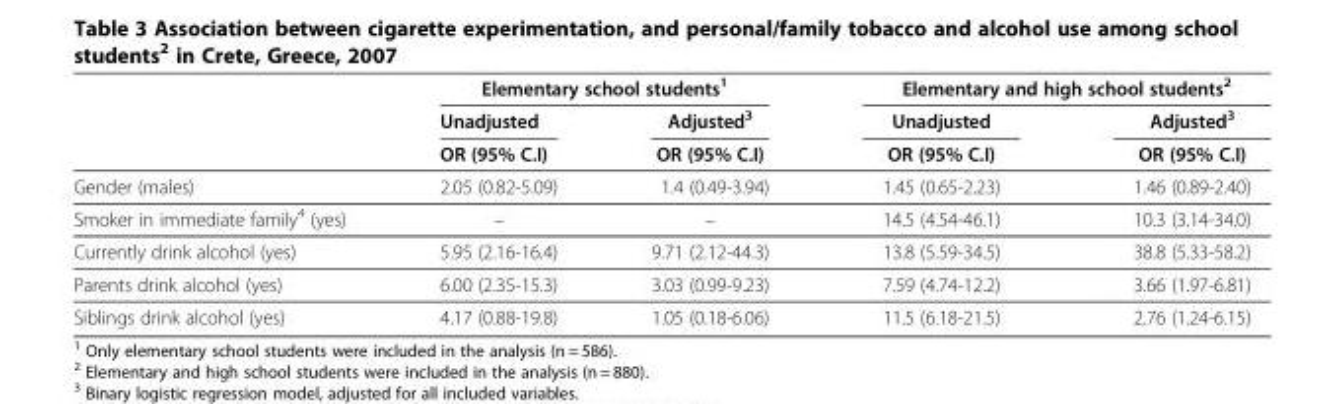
<table><thead><tr><td rowspan="3"></td><td colspan="2">Elementary school students<sup>1</sup></td><td colspan="2">Elementary and high school students<sup>2</sup></td></tr><tr><td rowspan="2">Unadjusted OR (95% C.I)</td><td rowspan="2">Adjusted<sup>3</sup> OR (95% C.I)</td><td rowspan="2">Unadjusted OR (95% C.I)</td><td rowspan="2">Adjusted<sup>3</sup> OR (95% C.I)</td></tr><tr></tr></thead><tbody><tr><td>Gender (males)</td><td>2.05 (0.82-5.09)</td><td>1.4 (0.49-3.94)</td><td>1.45 (0.65-2.23)</td><td>1.46 (0.89-2.40)</td></tr><tr><td>Smoker in immediate family<sup>4</sup> (yes)</td><td>–</td><td>–</td><td>14.5 (4.54-46.1)</td><td>10.3 (3.14-34.0)</td></tr><tr><td>Currently drink alcohol (yes)</td><td>5.95 (2.16-16.4)</td><td>9.71 (2.12-44.3)</td><td>13.8 (5.59-34.5)</td><td>38.8 (5.33-58.2)</td></tr><tr><td>Parents drink alcohol (yes)</td><td>6.00 (2.35-15.3)</td><td>3.03 (0.99-9.23)</td><td>7.59 (4.74-12.2)</td><td>3.66 (1.97-6.81)</td></tr><tr><td>Siblings drink alcohol (yes)</td><td>4.17 (0.88-19.8)</td><td>1.05 (0.18-6.06)</td><td>11.5 (6.18-21.5)</td><td>2.76 (1.24-6.15)</td></tr></tbody></table>